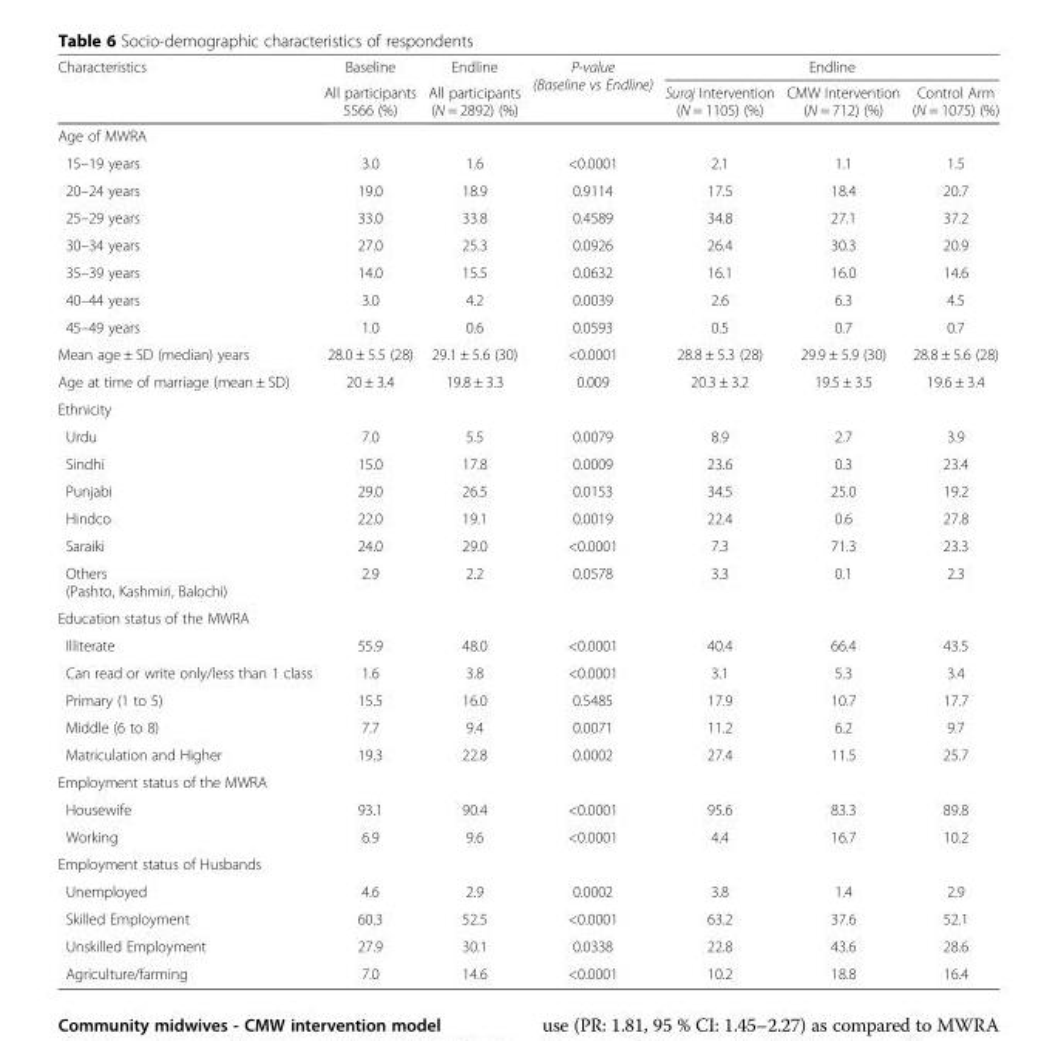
<table><thead><tr><td rowspan="2">Characteristics</td><td rowspan="2">Baseline All participants 5566 (%)</td><td rowspan="2">Endline All participants (N = 2892) (%)</td><td rowspan="2">P-value (Baseline vs Endline)</td><td colspan="3">Endline</td></tr><tr><td>Suraj Intervention (N = 1105) (%)</td><td>CMW Intervention (N = 712) (%)</td><td>Control Arm (N = 1075) (%)</td></tr></thead><tbody><tr><td colspan="7">Age of MWRA</td></tr><tr><td>15–19 years</td><td>3.0</td><td>1.6</td><td>&lt;0.0001</td><td>2.1</td><td>1.1</td><td>1.5</td></tr><tr><td>20–24 years</td><td>19.0</td><td>18.9</td><td>0.9114</td><td>17.5</td><td>18.4</td><td>20.7</td></tr><tr><td>25–29 years</td><td>33.0</td><td>33.8</td><td>0.4589</td><td>34.8</td><td>27.1</td><td>37.2</td></tr><tr><td>30–34 years</td><td>27.0</td><td>25.3</td><td>0.0926</td><td>26.4</td><td>30.3</td><td>20.9</td></tr><tr><td>35–39 years</td><td>14.0</td><td>15.5</td><td>0.0632</td><td>16.1</td><td>16.0</td><td>14.6</td></tr><tr><td>40–44 years</td><td>3.0</td><td>4.2</td><td>0.0039</td><td>2.6</td><td>6.3</td><td>4.5</td></tr><tr><td>45–49 years</td><td>1.0</td><td>0.6</td><td>0.0593</td><td>0.5</td><td>0.7</td><td>0.7</td></tr><tr><td>Mean age ± SD (median) years</td><td>28.0 ± 5.5 (28)</td><td>29.1 ± 5.6 (30)</td><td>&lt;0.0001</td><td>28.8 ± 5.3 (28)</td><td>29.9 ± 5.9 (30)</td><td>28.8 ± 5.6 (28)</td></tr><tr><td>Age at time of marriage (mean ± SD)</td><td>20 ± 3.4</td><td>19.8 ± 3.3</td><td>0.009</td><td>20.3 ± 3.2</td><td>19.5 ± 3.5</td><td>19.6 ± 3.4</td></tr><tr><td colspan="7">Ethnicity</td></tr><tr><td>Urdu</td><td>7.0</td><td>5.5</td><td>0.0079</td><td>8.9</td><td>2.7</td><td>3.9</td></tr><tr><td>Sindhi</td><td>15.0</td><td>17.8</td><td>0.0009</td><td>23.6</td><td>0.3</td><td>23.4</td></tr><tr><td>Punjabi</td><td>29.0</td><td>26.5</td><td>0.0153</td><td>34.5</td><td>25.0</td><td>19.2</td></tr><tr><td>Hindco</td><td>22.0</td><td>19.1</td><td>0.0019</td><td>22.4</td><td>0.6</td><td>27.8</td></tr><tr><td>Saraiki</td><td>24.0</td><td>29.0</td><td>&lt;0.0001</td><td>7.3</td><td>71.3</td><td>23.3</td></tr><tr><td>Others (Pashto, Kashmiri, Balochi)</td><td>2.9</td><td>2.2</td><td>0.0578</td><td>3.3</td><td>0.1</td><td>2.3</td></tr><tr><td colspan="7">Education status of the MWRA</td></tr><tr><td>Illiterate</td><td>55.9</td><td>48.0</td><td>&lt;0.0001</td><td>40.4</td><td>66.4</td><td>43.5</td></tr><tr><td>Can read or write only/less than 1 class</td><td>1.6</td><td>3.8</td><td>&lt;0.0001</td><td>3.1</td><td>5.3</td><td>3.4</td></tr><tr><td>Primary (1 to 5)</td><td>15.5</td><td>16.0</td><td>0.5485</td><td>17.9</td><td>10.7</td><td>17.7</td></tr><tr><td>Middle (6 to 8)</td><td>7.7</td><td>9.4</td><td>0.0071</td><td>11.2</td><td>6.2</td><td>9.7</td></tr><tr><td>Matriculation and Higher</td><td>19.3</td><td>22.8</td><td>0.0002</td><td>27.4</td><td>11.5</td><td>25.7</td></tr><tr><td colspan="7">Employment status of the MWRA</td></tr><tr><td>Housewife</td><td>93.1</td><td>90.4</td><td>&lt;0.0001</td><td>95.6</td><td>83.3</td><td>89.8</td></tr><tr><td>Working</td><td>6.9</td><td>9.6</td><td>&lt;0.0001</td><td>4.4</td><td>16.7</td><td>10.2</td></tr><tr><td colspan="7">Employment status of Husbands</td></tr><tr><td>Unemployed</td><td>4.6</td><td>2.9</td><td>0.0002</td><td>3.8</td><td>1.4</td><td>2.9</td></tr><tr><td>Skilled Employment</td><td>60.3</td><td>52.5</td><td>&lt;0.0001</td><td>63.2</td><td>37.6</td><td>52.1</td></tr><tr><td>Unskilled Employment</td><td>27.9</td><td>30.1</td><td>0.0338</td><td>22.8</td><td>43.6</td><td>28.6</td></tr><tr><td>Agriculture/farming</td><td>7.0</td><td>14.6</td><td>&lt;0.0001</td><td>10.2</td><td>18.8</td><td>16.4</td></tr></tbody></table>